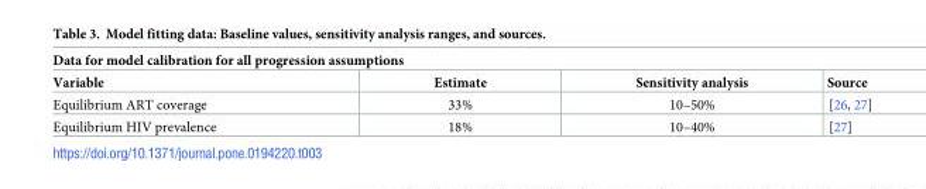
<table><thead><tr><td colspan="4">Data for model calibration for all progression assumptions</td></tr><tr><td>Variable</td><td>Estimate</td><td>Sensitivity analysis</td><td>Source</td></tr></thead><tbody><tr><td>Equilibrium ART coverage</td><td>33%</td><td>10–50%</td><td>[26, 27]</td></tr><tr><td>Equilibrium HIV prevalence</td><td>18%</td><td>10–40%</td><td>[27]</td></tr></tbody></table>